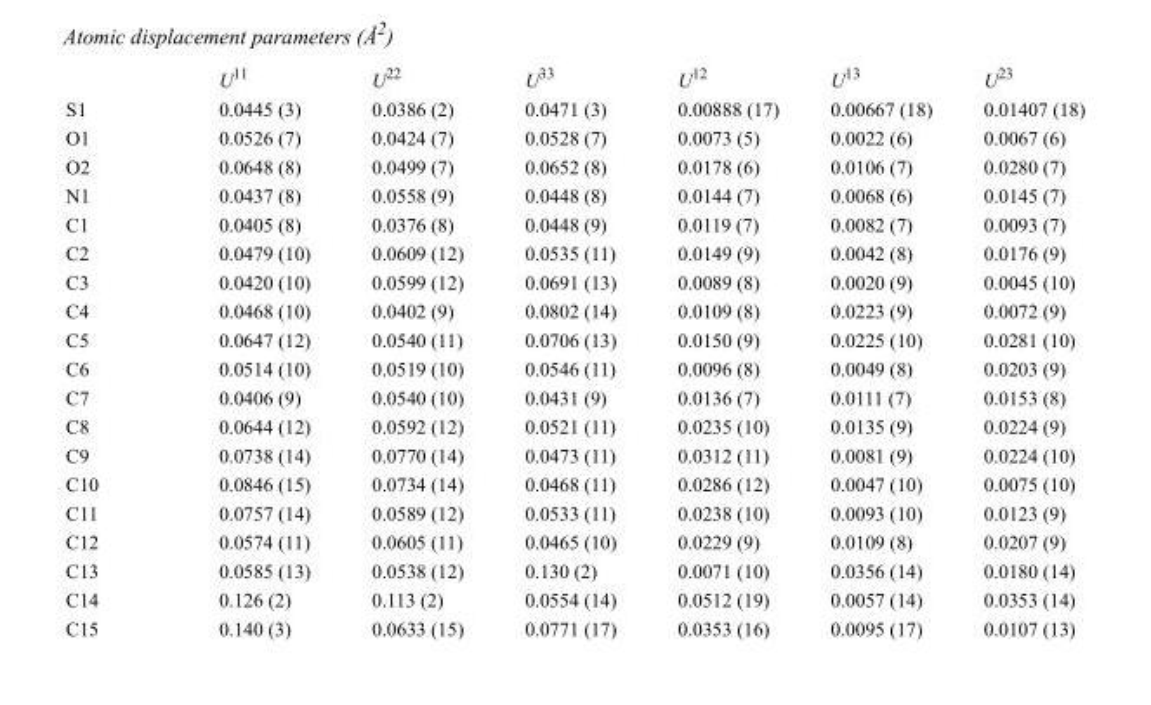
<table><thead><tr><td></td><td>U<sup>11</sup></td><td>U<sup>22</sup></td><td>U<sup>33</sup></td><td>U<sup>12</sup></td><td>U<sup>13</sup></td><td>U<sup>23</sup></td></tr></thead><tbody><tr><td>S1</td><td>0.0445 (3)</td><td>0.0386 (2)</td><td>0.0471 (3)</td><td>0.00888 (17)</td><td>0.00667 (18)</td><td>0.01407 (18)</td></tr><tr><td>O1</td><td>0.0526 (7)</td><td>0.0424 (7)</td><td>0.0528 (7)</td><td>0.0073 (5)</td><td>0.0022 (6)</td><td>0.0067 (6)</td></tr><tr><td>O2</td><td>0.0648 (8)</td><td>0.0499 (7)</td><td>0.0652 (8)</td><td>0.0178 (6)</td><td>0.0106 (7)</td><td>0.0280 (7)</td></tr><tr><td>N1</td><td>0.0437 (8)</td><td>0.0558 (9)</td><td>0.0448 (8)</td><td>0.0144 (7)</td><td>0.0068 (6)</td><td>0.0145 (7)</td></tr><tr><td>C1</td><td>0.0405 (8)</td><td>0.0376 (8)</td><td>0.0448 (9)</td><td>0.0119 (7)</td><td>0.0082 (7)</td><td>0.0093 (7)</td></tr><tr><td>C2</td><td>0.0479 (10)</td><td>0.0609 (12)</td><td>0.0535 (11)</td><td>0.0149 (9)</td><td>0.0042 (8)</td><td>0.0176 (9)</td></tr><tr><td>C3</td><td>0.0420 (10)</td><td>0.0599 (12)</td><td>0.0691 (13)</td><td>0.0089 (8)</td><td>0.0020 (9)</td><td>0.0045 (10)</td></tr><tr><td>C4</td><td>0.0468 (10)</td><td>0.0402 (9)</td><td>0.0802 (14)</td><td>0.0109 (8)</td><td>0.0223 (9)</td><td>0.0072 (9)</td></tr><tr><td>C5</td><td>0.0647 (12)</td><td>0.0540 (11)</td><td>0.0706 (13)</td><td>0.0150 (9)</td><td>0.0225 (10)</td><td>0.0281 (10)</td></tr><tr><td>C6</td><td>0.0514 (10)</td><td>0.0519 (10)</td><td>0.0546 (11)</td><td>0.0096 (8)</td><td>0.0049 (8)</td><td>0.0203 (9)</td></tr><tr><td>C7</td><td>0.0406 (9)</td><td>0.0540 (10)</td><td>0.0431 (9)</td><td>0.0136 (7)</td><td>0.0111 (7)</td><td>0.0153 (8)</td></tr><tr><td>C8</td><td>0.0644 (12)</td><td>0.0592 (12)</td><td>0.0521 (11)</td><td>0.0235 (10)</td><td>0.0135 (9)</td><td>0.0224 (9)</td></tr><tr><td>C9</td><td>0.0738 (14)</td><td>0.0770 (14)</td><td>0.0473 (11)</td><td>0.0312 (11)</td><td>0.0081 (9)</td><td>0.0224 (10)</td></tr><tr><td>C10</td><td>0.0846 (15)</td><td>0.0734 (14)</td><td>0.0468 (11)</td><td>0.0286 (12)</td><td>0.0047 (10)</td><td>0.0075 (10)</td></tr><tr><td>C11</td><td>0.0757 (14)</td><td>0.0589 (12)</td><td>0.0533 (11)</td><td>0.0238 (10)</td><td>0.0093 (10)</td><td>0.0123 (9)</td></tr><tr><td>C12</td><td>0.0574 (11)</td><td>0.0605 (11)</td><td>0.0465 (10)</td><td>0.0229 (9)</td><td>0.0109 (8)</td><td>0.0207 (9)</td></tr><tr><td>C13</td><td>0.0585 (13)</td><td>0.0538 (12)</td><td>0.130 (2)</td><td>0.0071 (10)</td><td>0.0356 (14)</td><td>0.0180 (14)</td></tr><tr><td>C14</td><td>0.126 (2)</td><td>0.113 (2)</td><td>0.0554 (14)</td><td>0.0512 (19)</td><td>0.0057 (14)</td><td>0.0353 (14)</td></tr><tr><td>C15</td><td>0.140 (3)</td><td>0.0633 (15)</td><td>0.0771 (17)</td><td>0.0353 (16)</td><td>0.0095 (17)</td><td>0.0107 (13)</td></tr></tbody></table>